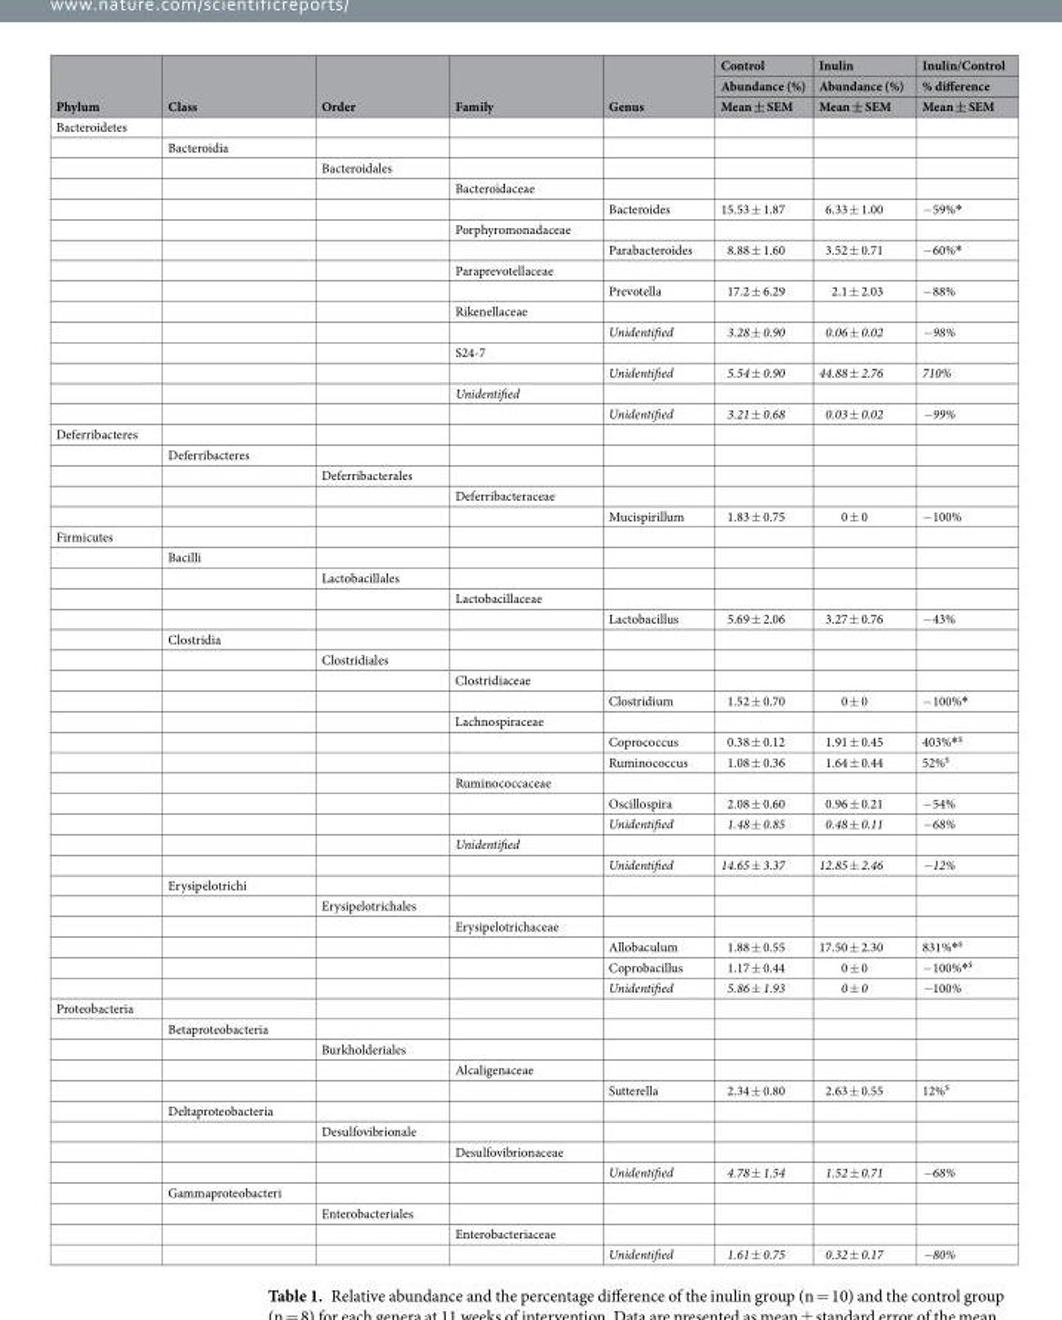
<table><thead><tr><td rowspan="3">Phylum</td><td rowspan="3">Class</td><td rowspan="3">Order</td><td rowspan="3">Family</td><td rowspan="3">Genus</td><td rowspan="3">Control Abundance (%) Mean ± SEM</td><td rowspan="3">Inulin Abundance (%) Mean ± SEM</td><td rowspan="3">Inulin/Control % difference Mean ± SEM</td></tr><tr></tr><tr></tr></thead><tbody><tr><td colspan="8">Bacteroidetes</td></tr><tr><td></td><td>Bacteroidia</td><td></td><td></td><td></td><td></td><td></td><td></td></tr><tr><td></td><td></td><td>Bacteroidales</td><td></td><td></td><td></td><td></td><td></td></tr><tr><td></td><td></td><td></td><td>Bacteroidaceae</td><td></td><td></td><td></td><td></td></tr><tr><td></td><td></td><td></td><td></td><td>Bacteroides</td><td>15.53 ± 1.87</td><td>6.33 ± 1.00</td><td>−59%*</td></tr><tr><td></td><td></td><td></td><td>Porphyromonadaceae</td><td></td><td></td><td></td><td></td></tr><tr><td></td><td></td><td></td><td></td><td>Parabacteroides</td><td>8.88 ± 1.60</td><td>3.52 ± 0.71</td><td>−60%*</td></tr><tr><td></td><td></td><td></td><td>Paraprevotellaceae</td><td></td><td></td><td></td><td></td></tr><tr><td></td><td></td><td></td><td></td><td>Prevotella</td><td>17.2 ± 6.29</td><td>2.1 ± 2.03</td><td>−88%</td></tr><tr><td></td><td></td><td></td><td>Rikenellaceae</td><td></td><td></td><td></td><td></td></tr><tr><td></td><td></td><td></td><td></td><td>Unidentified</td><td>3.28 ± 0.90</td><td>0.06 ± 0.02</td><td>−98%</td></tr><tr><td></td><td></td><td></td><td>S24-7</td><td></td><td></td><td></td><td></td></tr><tr><td></td><td></td><td></td><td></td><td>Unidentified</td><td>5.54 ± 0.90</td><td>44.88 ± 2.76</td><td>710%</td></tr><tr><td></td><td></td><td></td><td>Unidentified</td><td></td><td></td><td></td><td></td></tr><tr><td></td><td></td><td></td><td></td><td>Unidentified</td><td>3.21 ± 0.68</td><td>0.03 ± 0.02</td><td>−99%</td></tr><tr><td colspan="8">Deferribacteres</td></tr><tr><td></td><td>Deferribacteres</td><td></td><td></td><td></td><td></td><td></td><td></td></tr><tr><td></td><td></td><td>Deferribacterales</td><td></td><td></td><td></td><td></td><td></td></tr><tr><td></td><td></td><td></td><td>Deferribacteraceae</td><td></td><td></td><td></td><td></td></tr><tr><td></td><td></td><td></td><td></td><td>Mucispirillum</td><td>1.83 ± 0.75</td><td>0 ± 0</td><td>−100%</td></tr><tr><td colspan="8">Firmicutes</td></tr><tr><td></td><td>Bacilli</td><td></td><td></td><td></td><td></td><td></td><td></td></tr><tr><td></td><td></td><td>Lactobacillales</td><td></td><td></td><td></td><td></td><td></td></tr><tr><td></td><td></td><td></td><td>Lactobacillaceae</td><td></td><td></td><td></td><td></td></tr><tr><td></td><td></td><td></td><td></td><td>Lactobacillus</td><td>5.69 ± 2.06</td><td>3.27 ± 0.76</td><td>−43%</td></tr><tr><td></td><td>Clostridia</td><td></td><td></td><td></td><td></td><td></td><td></td></tr><tr><td></td><td></td><td>Clostridiales</td><td></td><td></td><td></td><td></td><td></td></tr><tr><td></td><td></td><td></td><td>Clostridiaceae</td><td></td><td></td><td></td><td></td></tr><tr><td></td><td></td><td></td><td></td><td>Clostridium</td><td>1.52 ± 0.70</td><td>0 ± 0</td><td>−100%*</td></tr><tr><td></td><td></td><td></td><td>Lachnospiraceae</td><td></td><td></td><td></td><td></td></tr><tr><td></td><td></td><td></td><td></td><td>Coprococcus</td><td>0.38 ± 0.12</td><td>1.91 ± 0.45</td><td>403%*<sup>$</sup></td></tr><tr><td></td><td></td><td></td><td></td><td>Ruminococcus</td><td>1.08 ± 0.36</td><td>1.64 ± 0.44</td><td>52%<sup>$</sup></td></tr><tr><td></td><td></td><td></td><td>Ruminococcaceae</td><td></td><td></td><td></td><td></td></tr><tr><td></td><td></td><td></td><td></td><td>Oscillospira</td><td>2.08 ± 0.60</td><td>0.96 ± 0.21</td><td>−54%</td></tr><tr><td></td><td></td><td></td><td></td><td>Unidentified</td><td>1.48 ± 0.85</td><td>0.48 ± 0.11</td><td>−68%</td></tr><tr><td></td><td></td><td></td><td>Unidentified</td><td></td><td></td><td></td><td></td></tr><tr><td></td><td></td><td></td><td></td><td>Unidentified</td><td>14.65 ± 3.37</td><td>12.85 ± 2.46</td><td>−12%</td></tr><tr><td></td><td>Erysipelotrichi</td><td></td><td></td><td></td><td></td><td></td><td></td></tr><tr><td></td><td></td><td>Erysipelotrichales</td><td></td><td></td><td></td><td></td><td></td></tr><tr><td></td><td></td><td></td><td>Erysipelotrichaceae</td><td></td><td></td><td></td><td></td></tr><tr><td></td><td></td><td></td><td></td><td>Allobaculum</td><td>1.88 ± 0.55</td><td>17.50 ± 2.30</td><td>831%*<sup>$</sup></td></tr><tr><td></td><td></td><td></td><td></td><td>Coprobacillus</td><td>1.17 ± 0.44</td><td>0 ± 0</td><td>−100%*<sup>$</sup></td></tr><tr><td></td><td></td><td></td><td></td><td>Unidentified</td><td>5.86 ± 1.93</td><td>0 ± 0</td><td>−100%</td></tr><tr><td colspan="8">Proteobacteria</td></tr><tr><td></td><td>Betaproteobacteria</td><td></td><td></td><td></td><td></td><td></td><td></td></tr><tr><td></td><td></td><td>Burkholderiales</td><td></td><td></td><td></td><td></td><td></td></tr><tr><td></td><td></td><td></td><td>Alcaligenaceae</td><td></td><td></td><td></td><td></td></tr><tr><td></td><td></td><td></td><td></td><td>Sutterella</td><td>2.34 ± 0.80</td><td>2.63 ± 0.55</td><td>12%<sup>$</sup></td></tr><tr><td></td><td>Deltaproteobacteria</td><td></td><td></td><td></td><td></td><td></td><td></td></tr><tr><td></td><td></td><td>Desulfovibrionale</td><td></td><td></td><td></td><td></td><td></td></tr><tr><td></td><td></td><td></td><td>Desulfovibrionaceae</td><td></td><td></td><td></td><td></td></tr><tr><td></td><td></td><td></td><td></td><td>Unidentified</td><td>4.78 ± 1.54</td><td>1.52 ± 0.71</td><td>−68%</td></tr><tr><td></td><td>Gammaproteobacteri</td><td></td><td></td><td></td><td></td><td></td><td></td></tr><tr><td></td><td></td><td>Enterobacteriales</td><td></td><td></td><td></td><td></td><td></td></tr><tr><td></td><td></td><td></td><td>Enterobacteriaceae</td><td></td><td></td><td></td><td></td></tr><tr><td></td><td></td><td></td><td></td><td>Unidentified</td><td>1.61 ± 0.75</td><td>0.32 ± 0.17</td><td>−80%</td></tr></tbody></table>